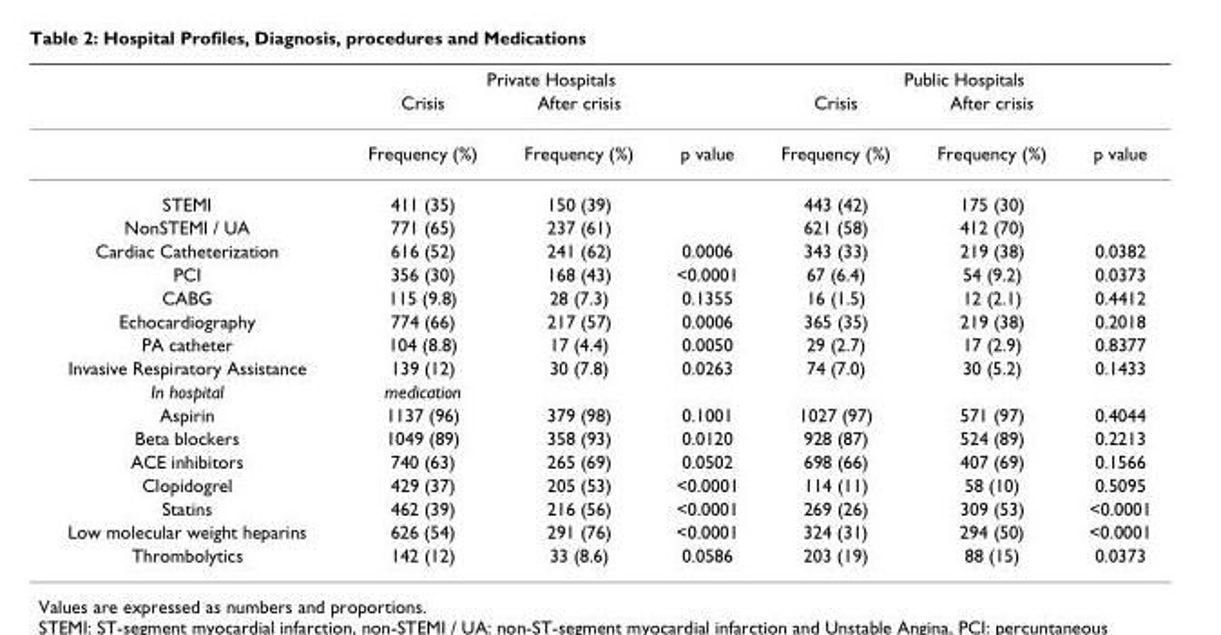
<table><thead><tr><td rowspan="2"></td><td colspan="3">Private Hospitals</td><td colspan="3">Public Hospitals</td></tr><tr><td>Crisis</td><td>After crisis</td><td></td><td>Crisis</td><td>After crisis</td><td></td></tr></thead><tbody><tr><td></td><td>Frequency (%)</td><td>Frequency (%)</td><td>p value</td><td>Frequency (%)</td><td>Frequency (%)</td><td>p value</td></tr><tr><td>STEMI</td><td>411 (35)</td><td>150 (39)</td><td></td><td>443 (42)</td><td>175 (30)</td><td></td></tr><tr><td>NonSTEMI / UA</td><td>771 (65)</td><td>237 (61)</td><td></td><td>621 (58)</td><td>412 (70)</td><td></td></tr><tr><td>Cardiac Catheterization</td><td>616 (52)</td><td>241 (62)</td><td>0.0006</td><td>343 (33)</td><td>219 (38)</td><td>0.0382</td></tr><tr><td>PCI</td><td>356 (30)</td><td>168 (43)</td><td>&lt;0.0001</td><td>67 (6.4)</td><td>54 (9.2)</td><td>0.0373</td></tr><tr><td>CABG</td><td>115 (9.8)</td><td>28 (7.3)</td><td>0.1355</td><td>16 (1.5)</td><td>12 (2.1)</td><td>0.4412</td></tr><tr><td>Echocardiography</td><td>774 (66)</td><td>217 (57)</td><td>0.0006</td><td>365 (35)</td><td>219 (38)</td><td>0.2018</td></tr><tr><td>PA catheter</td><td>104 (8.8)</td><td>17 (4.4)</td><td>0.0050</td><td>29 (2.7)</td><td>17 (2.9)</td><td>0.8377</td></tr><tr><td>Invasive Respiratory Assistance</td><td>139 (12)</td><td>30 (7.8)</td><td>0.0263</td><td>74 (7.0)</td><td>30 (5.2)</td><td>0.1433</td></tr><tr><td>In hospital</td><td>medication</td><td></td><td></td><td></td><td></td><td></td></tr><tr><td>Aspirin</td><td>1137 (96)</td><td>379 (98)</td><td>0.1001</td><td>1027 (97)</td><td>571 (97)</td><td>0.4044</td></tr><tr><td>Beta blockers</td><td>1049 (89)</td><td>358 (93)</td><td>0.0120</td><td>928 (87)</td><td>524 (89)</td><td>0.2213</td></tr><tr><td>ACE inhibitors</td><td>740 (63)</td><td>265 (69)</td><td>0.0502</td><td>698 (66)</td><td>407 (69)</td><td>0.1566</td></tr><tr><td>Clopidogrel</td><td>429 (37)</td><td>205 (53)</td><td>&lt;0.0001</td><td>114 (11)</td><td>58 (10)</td><td>0.5095</td></tr><tr><td>Statins</td><td>462 (39)</td><td>216 (56)</td><td>&lt;0.0001</td><td>269 (26)</td><td>309 (53)</td><td>&lt;0.0001</td></tr><tr><td>Low molecular weight heparins</td><td>626 (54)</td><td>291 (76)</td><td>&lt;0.0001</td><td>324 (31)</td><td>294 (50)</td><td>&lt;0.0001</td></tr><tr><td>Thrombolytics</td><td>142 (12)</td><td>33 (8.6)</td><td>0.0586</td><td>203 (19)</td><td>88 (15)</td><td>0.0373</td></tr></tbody></table>